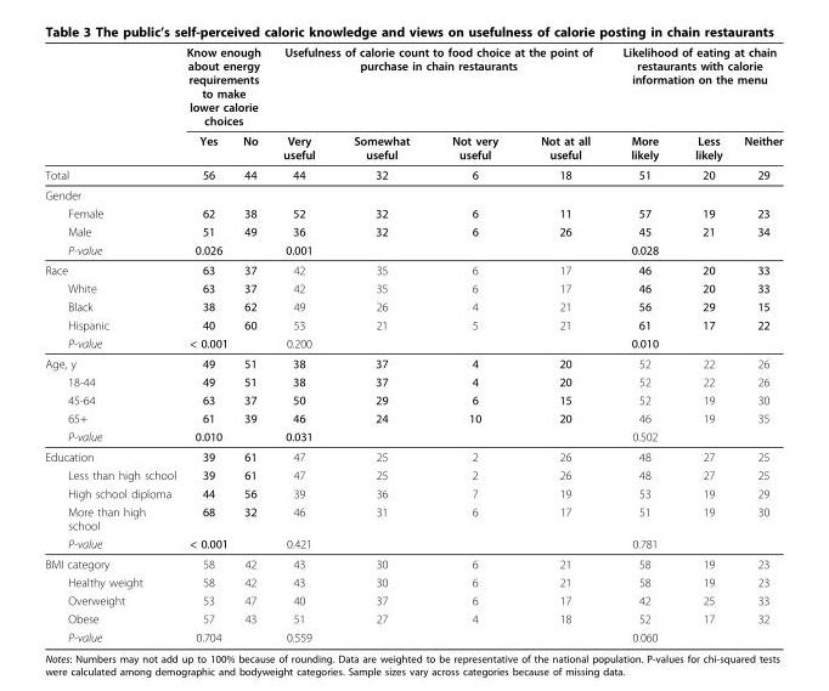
<table><thead><tr><td rowspan="2"></td><td colspan="2">Know enough about energy requirements to make lower calorie choices</td><td colspan="4">Usefulness of calorie count to food choice at the point of purchase in chain restaurants</td><td colspan="3">Likelihood of eating at chain restaurants with calorie information on the menu</td></tr><tr><td>Yes</td><td>No</td><td>Very useful</td><td>Somewhat useful</td><td>Not very useful</td><td>Not at all useful</td><td>More likely</td><td>Less likely</td><td>Neither</td></tr></thead><tbody><tr><td>Total</td><td>56</td><td>44</td><td>44</td><td>32</td><td>6</td><td>18</td><td>51</td><td>20</td><td>29</td></tr><tr><td colspan="10">Gender</td></tr><tr><td>Female</td><td>62</td><td>38</td><td>52</td><td>32</td><td>6</td><td>11</td><td>57</td><td>19</td><td>23</td></tr><tr><td>Male</td><td>51</td><td>49</td><td>36</td><td>32</td><td>6</td><td>26</td><td>45</td><td>21</td><td>34</td></tr><tr><td>P-value</td><td>0.026</td><td></td><td>0.001</td><td></td><td></td><td></td><td>0.028</td><td></td><td></td></tr><tr><td>Race</td><td>63</td><td>37</td><td>42</td><td>35</td><td>6</td><td>17</td><td>46</td><td>20</td><td>33</td></tr><tr><td>White</td><td>63</td><td>37</td><td>42</td><td>35</td><td>6</td><td>17</td><td>46</td><td>20</td><td>33</td></tr><tr><td>Black</td><td>38</td><td>62</td><td>49</td><td>26</td><td>4</td><td>21</td><td>56</td><td>29</td><td>15</td></tr><tr><td>Hispanic</td><td>40</td><td>60</td><td>53</td><td>21</td><td>5</td><td>21</td><td>61</td><td>17</td><td>22</td></tr><tr><td>P-value</td><td>&lt; 0.001</td><td></td><td>0.200</td><td></td><td></td><td></td><td>0.010</td><td></td><td></td></tr><tr><td>Age, y</td><td>49</td><td>51</td><td>38</td><td>37</td><td>4</td><td>20</td><td>52</td><td>22</td><td>26</td></tr><tr><td>18-44</td><td>49</td><td>51</td><td>38</td><td>37</td><td>4</td><td>20</td><td>52</td><td>22</td><td>26</td></tr><tr><td>45-64</td><td>63</td><td>37</td><td>50</td><td>29</td><td>6</td><td>15</td><td>52</td><td>19</td><td>30</td></tr><tr><td>65+</td><td>61</td><td>39</td><td>46</td><td>24</td><td>10</td><td>20</td><td>46</td><td>19</td><td>35</td></tr><tr><td>P-value</td><td>0.010</td><td></td><td>0.031</td><td></td><td></td><td></td><td>0.502</td><td></td><td></td></tr><tr><td>Education</td><td>39</td><td>61</td><td>47</td><td>25</td><td>2</td><td>26</td><td>48</td><td>27</td><td>25</td></tr><tr><td>Less than high school</td><td>39</td><td>61</td><td>47</td><td>25</td><td>2</td><td>26</td><td>48</td><td>27</td><td>25</td></tr><tr><td>High school diploma</td><td>44</td><td>56</td><td>39</td><td>36</td><td>7</td><td>19</td><td>53</td><td>19</td><td>29</td></tr><tr><td>More than high school</td><td>68</td><td>32</td><td>46</td><td>31</td><td>6</td><td>17</td><td>51</td><td>19</td><td>30</td></tr><tr><td>P-value</td><td>&lt; 0.001</td><td></td><td>0.421</td><td></td><td></td><td></td><td>0.781</td><td></td><td></td></tr><tr><td>BMI category</td><td>58</td><td>42</td><td>43</td><td>30</td><td>6</td><td>21</td><td>58</td><td>19</td><td>23</td></tr><tr><td>Healthy weight</td><td>58</td><td>42</td><td>43</td><td>30</td><td>6</td><td>21</td><td>58</td><td>19</td><td>23</td></tr><tr><td>Overweight</td><td>53</td><td>47</td><td>40</td><td>37</td><td>6</td><td>17</td><td>42</td><td>25</td><td>33</td></tr><tr><td>Obese</td><td>57</td><td>43</td><td>51</td><td>27</td><td>4</td><td>18</td><td>52</td><td>17</td><td>32</td></tr><tr><td>P-value</td><td>0.704</td><td></td><td>0.559</td><td></td><td></td><td></td><td>0.060</td><td></td><td></td></tr></tbody></table>